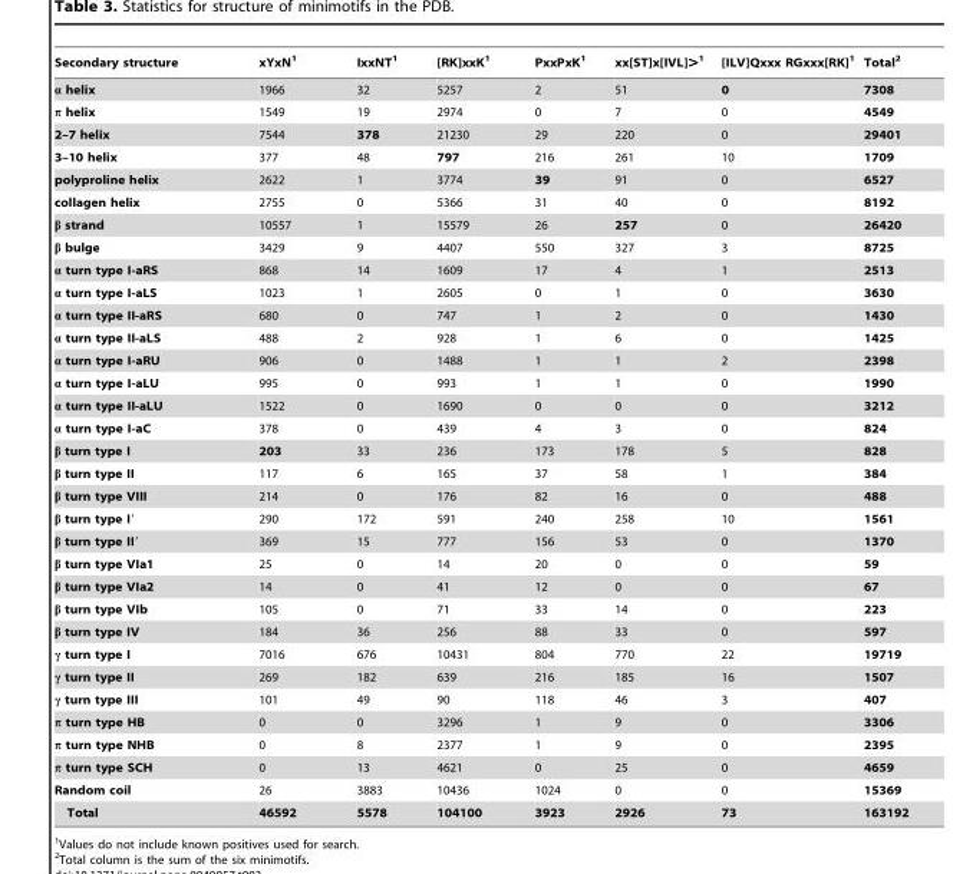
<table><thead><tr><td>Secondary structure</td><td>xYxN<sup>1</sup></td><td>IxxNT<sup>1</sup></td><td>[RK]xxK<sup>1</sup></td><td>PxxPxK<sup>1</sup></td><td>xx[ST]x[IVL]&gt;<sup>1</sup></td><td>[ILV]Qxxx RGxxx[RK]<sup>1</sup></td><td>Total<sup>2</sup></td></tr></thead><tbody><tr><td>α helix</td><td>1966</td><td>32</td><td>5257</td><td>2</td><td>51</td><td>0</td><td>7308</td></tr><tr><td>π helix</td><td>1549</td><td>19</td><td>2974</td><td>0</td><td>7</td><td>0</td><td>4549</td></tr><tr><td>2–7 helix</td><td>7544</td><td>378</td><td>21230</td><td>29</td><td>220</td><td>0</td><td>29401</td></tr><tr><td>3–10 helix</td><td>377</td><td>48</td><td>797</td><td>216</td><td>261</td><td>10</td><td>1709</td></tr><tr><td>polyproline helix</td><td>2622</td><td>1</td><td>3774</td><td>39</td><td>91</td><td>0</td><td>6527</td></tr><tr><td>collagen helix</td><td>2755</td><td>0</td><td>5366</td><td>31</td><td>40</td><td>0</td><td>8192</td></tr><tr><td>β strand</td><td>10557</td><td>1</td><td>15579</td><td>26</td><td>257</td><td>0</td><td>26420</td></tr><tr><td>β bulge</td><td>3429</td><td>9</td><td>4407</td><td>550</td><td>327</td><td>3</td><td>8725</td></tr><tr><td>α turn type I-aRS</td><td>868</td><td>14</td><td>1609</td><td>17</td><td>4</td><td>1</td><td>2513</td></tr><tr><td>α turn type I-aLS</td><td>1023</td><td>1</td><td>2605</td><td>0</td><td>1</td><td>0</td><td>3630</td></tr><tr><td>α turn type II-aRS</td><td>680</td><td>0</td><td>747</td><td>1</td><td>2</td><td>0</td><td>1430</td></tr><tr><td>α turn type II-aLS</td><td>488</td><td>2</td><td>928</td><td>1</td><td>6</td><td>0</td><td>1425</td></tr><tr><td>α turn type I-aRU</td><td>906</td><td>0</td><td>1488</td><td>1</td><td>1</td><td>2</td><td>2398</td></tr><tr><td>α turn type I-aLU</td><td>995</td><td>0</td><td>993</td><td>1</td><td>1</td><td>0</td><td>1990</td></tr><tr><td>α turn type II-aLU</td><td>1522</td><td>0</td><td>1690</td><td>0</td><td>0</td><td>0</td><td>3212</td></tr><tr><td>α turn type I-aC</td><td>378</td><td>0</td><td>439</td><td>4</td><td>3</td><td>0</td><td>824</td></tr><tr><td>β turn type I</td><td>203</td><td>33</td><td>236</td><td>173</td><td>178</td><td>5</td><td>828</td></tr><tr><td>β turn type II</td><td>117</td><td>6</td><td>165</td><td>37</td><td>58</td><td>1</td><td>384</td></tr><tr><td>β turn type VIII</td><td>214</td><td>0</td><td>176</td><td>82</td><td>16</td><td>0</td><td>488</td></tr><tr><td>β turn type I′</td><td>290</td><td>172</td><td>591</td><td>240</td><td>258</td><td>10</td><td>1561</td></tr><tr><td>β turn type II′</td><td>369</td><td>15</td><td>777</td><td>156</td><td>53</td><td>0</td><td>1370</td></tr><tr><td>β turn type VIa1</td><td>25</td><td>0</td><td>14</td><td>20</td><td>0</td><td>0</td><td>59</td></tr><tr><td>β turn type VIa2</td><td>14</td><td>0</td><td>41</td><td>12</td><td>0</td><td>0</td><td>67</td></tr><tr><td>β turn type VIb</td><td>105</td><td>0</td><td>71</td><td>33</td><td>14</td><td>0</td><td>223</td></tr><tr><td>β turn type IV</td><td>184</td><td>36</td><td>256</td><td>88</td><td>33</td><td>0</td><td>597</td></tr><tr><td>γ turn type I</td><td>7016</td><td>676</td><td>10431</td><td>804</td><td>770</td><td>22</td><td>19719</td></tr><tr><td>γ turn type II</td><td>269</td><td>182</td><td>639</td><td>216</td><td>185</td><td>16</td><td>1507</td></tr><tr><td>γ turn type III</td><td>101</td><td>49</td><td>90</td><td>118</td><td>46</td><td>3</td><td>407</td></tr><tr><td>π turn type HB</td><td>0</td><td>0</td><td>3296</td><td>1</td><td>9</td><td>0</td><td>3306</td></tr><tr><td>π turn type NHB</td><td>0</td><td>8</td><td>2377</td><td>1</td><td>9</td><td>0</td><td>2395</td></tr><tr><td>π turn type SCH</td><td>0</td><td>13</td><td>4621</td><td>0</td><td>25</td><td>0</td><td>4659</td></tr><tr><td>Random coil</td><td>26</td><td>3883</td><td>10436</td><td>1024</td><td>0</td><td>0</td><td>15369</td></tr><tr><td>Total</td><td>46592</td><td>5578</td><td>104100</td><td>3923</td><td>2926</td><td>73</td><td>163192</td></tr></tbody></table>